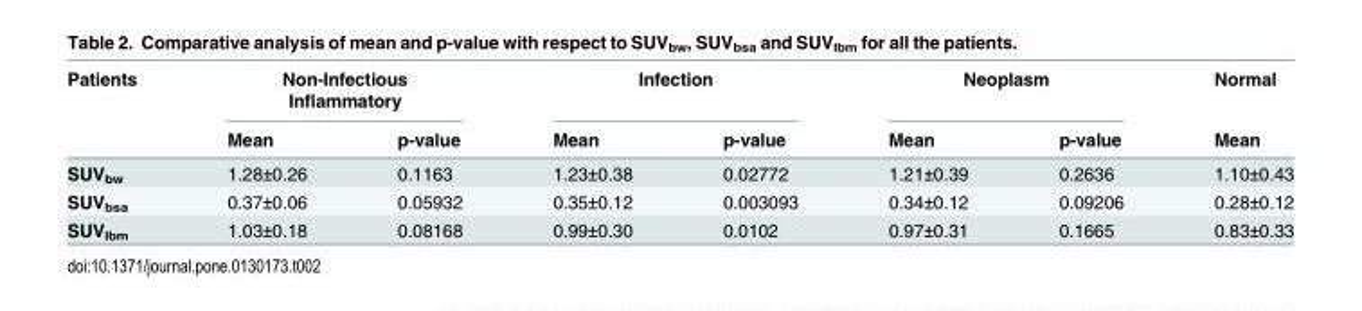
<table><thead><tr><td rowspan="2">Patients</td><td colspan="2">Non-Infectious Inflammatory</td><td colspan="2">Infection</td><td colspan="2">Neoplasm</td><td rowspan="2">Normal Mean</td></tr><tr><td>Mean</td><td>p-value</td><td>Mean</td><td>p-value</td><td>Mean</td><td>p-value</td></tr></thead><tbody><tr><td>SUV<sub>bw</sub></td><td>1.28±0.26</td><td>0.1163</td><td>1.23±0.38</td><td>0.02772</td><td>1.21±0.39</td><td>0.2636</td><td>1.10±0.43</td></tr><tr><td>SUV<sub>bsa</sub></td><td>0.37±0.06</td><td>0.05932</td><td>0.35±0.12</td><td>0.003093</td><td>0.34±0.12</td><td>0.09206</td><td>0.28±0.12</td></tr><tr><td>SUV<sub>lbm</sub></td><td>1.03±0.18</td><td>0.08168</td><td>0.99±0.30</td><td>0.0102</td><td>0.97±0.31</td><td>0.1665</td><td>0.83±0.33</td></tr></tbody></table>